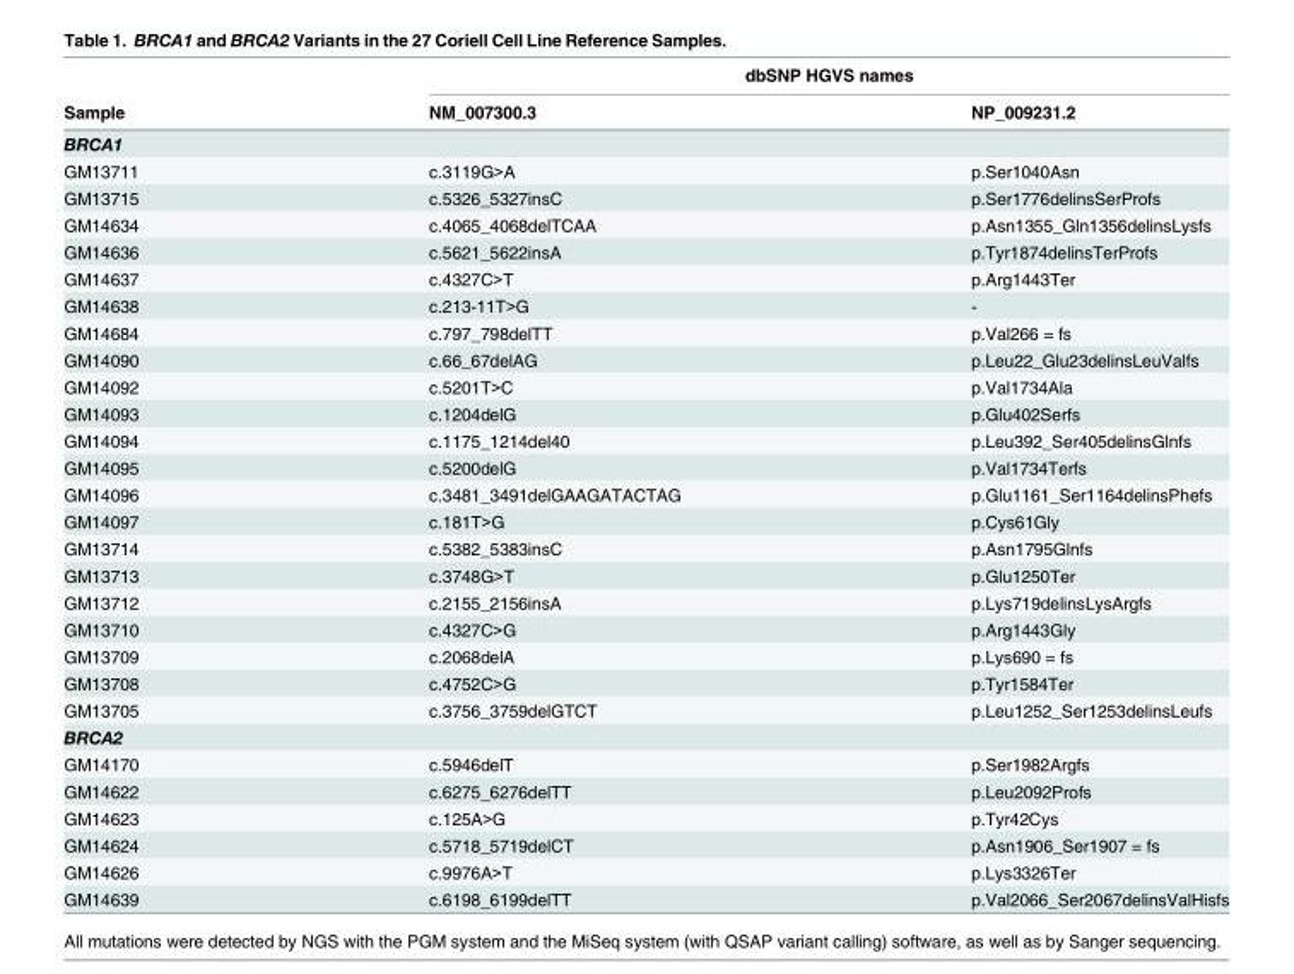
<table><thead><tr><td rowspan="2">Sample</td><td colspan="2">dbSNP HGVS names</td></tr><tr><td>NM_007300.3</td><td>NP_009231.2</td></tr></thead><tbody><tr><td colspan="3">BRCA1</td></tr><tr><td>GM13711</td><td>c.3119G&gt;A</td><td>p.Ser1040Asn</td></tr><tr><td>GM13715</td><td>c.5326_5327insC</td><td>p.Ser1776delinsSerProfs</td></tr><tr><td>GM14634</td><td>c.4065_4068delTCAA</td><td>p.Asn1355_Gln1356delinsLysfs</td></tr><tr><td>GM14636</td><td>c.5621_5622insA</td><td>p.Tyr1874delinsTerProfs</td></tr><tr><td>GM14637</td><td>c.4327C&gt;T</td><td>p.Arg1443Ter</td></tr><tr><td>GM14638</td><td>c.213-11T&gt;G</td><td>-</td></tr><tr><td>GM14684</td><td>c.797_798delTT</td><td>p.Val266 = fs</td></tr><tr><td>GM14090</td><td>c.66_67delAG</td><td>p.Leu22_Glu23delinsLeuValfs</td></tr><tr><td>GM14092</td><td>c.5201T&gt;C</td><td>p.Val1734Ala</td></tr><tr><td>GM14093</td><td>c.1204delG</td><td>p.Glu402Serfs</td></tr><tr><td>GM14094</td><td>c.1175_1214del40</td><td>p.Leu392_Ser405delinsGlnfs</td></tr><tr><td>GM14095</td><td>c.5200delG</td><td>p.Val1734Terfs</td></tr><tr><td>GM14096</td><td>c.3481_3491delGAAGATACTAG</td><td>p.Glu1161_Ser1164delinsPhefs</td></tr><tr><td>GM14097</td><td>c.181T&gt;G</td><td>p.Cys61Gly</td></tr><tr><td>GM13714</td><td>c.5382_5383insC</td><td>p.Asn1795Glnfs</td></tr><tr><td>GM13713</td><td>c.3748G&gt;T</td><td>p.Glu1250Ter</td></tr><tr><td>GM13712</td><td>c.2155_2156insA</td><td>p.Lys719delinsLysArgfs</td></tr><tr><td>GM13710</td><td>c.4327C&gt;G</td><td>p.Arg1443Gly</td></tr><tr><td>GM13709</td><td>c.2068delA</td><td>p.Lys690 = fs</td></tr><tr><td>GM13708</td><td>c.4752C&gt;G</td><td>p.Tyr1584Ter</td></tr><tr><td>GM13705</td><td>c.3756_3759delGTCT</td><td>p.Leu1252_Ser1253delinsLeufs</td></tr><tr><td colspan="3">BRCA2</td></tr><tr><td>GM14170</td><td>c.5946delT</td><td>p.Ser1982Argfs</td></tr><tr><td>GM14622</td><td>c.6275_6276delTT</td><td>p.Leu2092Profs</td></tr><tr><td>GM14623</td><td>c.125A&gt;G</td><td>p.Tyr42Cys</td></tr><tr><td>GM14624</td><td>c.5718_5719delCT</td><td>p.Asn1906_Ser1907 = fs</td></tr><tr><td>GM14626</td><td>c.9976A&gt;T</td><td>p.Lys3326Ter</td></tr><tr><td>GM14639</td><td>c.6198_6199delTT</td><td>p.Val2066_Ser2067delinsValHisfs</td></tr></tbody></table>